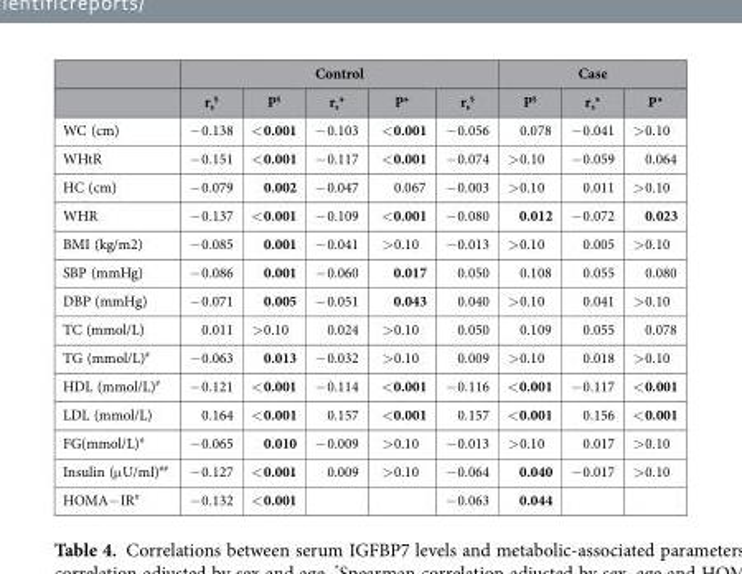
<table><thead><tr><td rowspan="2"></td><td colspan="5">Control</td><td colspan="3">Case</td></tr><tr><td>r<sub>s</sub> §</td><td>P§</td><td>r<sub>s</sub>*</td><td>P*</td><td>r<sub>s</sub> §</td><td>P§</td><td>r<sub>s</sub>*</td><td>P*</td></tr></thead><tbody><tr><td>WC (cm)</td><td>− 0.138</td><td>&lt; 0.001</td><td>− 0.103</td><td>&lt; 0.001</td><td>− 0.056</td><td>0.078</td><td>− 0.041</td><td>&gt; 0.10</td></tr><tr><td>WHtR</td><td>− 0.151</td><td>&lt; 0.001</td><td>− 0.117</td><td>&lt; 0.001</td><td>− 0.074</td><td>&gt; 0.10</td><td>− 0.059</td><td>0.064</td></tr><tr><td>HC (cm)</td><td>− 0.079</td><td>0.002</td><td>− 0.047</td><td>0.067</td><td>− 0.003</td><td>&gt; 0.10</td><td>0.011</td><td>&gt; 0.10</td></tr><tr><td>WHR</td><td>− 0.137</td><td>&lt; 0.001</td><td>− 0.109</td><td>&lt; 0.001</td><td>− 0.080</td><td>0.012</td><td>− 0.072</td><td>0.023</td></tr><tr><td>BMI (kg/m2)</td><td>− 0.085</td><td>0.001</td><td>− 0.041</td><td>&gt; 0.10</td><td>− 0.013</td><td>&gt; 0.10</td><td>0.005</td><td>&gt; 0.10</td></tr><tr><td>SBP (mmHg)</td><td>− 0.086</td><td>0.001</td><td>− 0.060</td><td>0.017</td><td>0.050</td><td>0.108</td><td>0.055</td><td>0.080</td></tr><tr><td>DBP (mmHg)</td><td>− 0.071</td><td>0.005</td><td>− 0.051</td><td>0.043</td><td>0.040</td><td>&gt; 0.10</td><td>0.041</td><td>&gt; 0.10</td></tr><tr><td>TC (mmol/L)</td><td>0.011</td><td>&gt; 0.10</td><td>0.024</td><td>&gt; 0.10</td><td>0.050</td><td>0.109</td><td>0.055</td><td>0.078</td></tr><tr><td>TG (mmol/L)<sup>#</sup></td><td>− 0.063</td><td>0.013</td><td>− 0.032</td><td>&gt; 0.10</td><td>0.009</td><td>&gt; 0.10</td><td>0.018</td><td>&gt; 0.10</td></tr><tr><td>HDL (mmol/L)<sup>#</sup></td><td>− 0.121</td><td>&lt; 0.001</td><td>− 0.114</td><td>&lt; 0.001</td><td>− 0.116</td><td>&lt; 0.001</td><td>− 0.117</td><td>&lt; 0.001</td></tr><tr><td>LDL (mmol/L)</td><td>0.164</td><td>&lt; 0.001</td><td>0.157</td><td>&lt;0.001</td><td>0.157</td><td>&lt; 0.001</td><td>0.156</td><td>&lt; 0.001</td></tr><tr><td>FG(mmol/L)<sup>#</sup></td><td>− 0.065</td><td>0.010</td><td>− 0.009</td><td>&gt; 0.10</td><td>− 0.013</td><td>&gt; 0.10</td><td>0.017</td><td>&gt; 0.10</td></tr><tr><td>Insulin (μ U/ml)<sup>##</sup></td><td>− 0.127</td><td>&lt; 0.001</td><td>0.009</td><td>&gt; 0.10</td><td>− 0.064</td><td>0.040</td><td>− 0.017</td><td>&gt; 0.10</td></tr><tr><td>HOMA− IR<sup>#</sup></td><td>− 0.132</td><td>&lt; 0.001</td><td></td><td></td><td>− 0.063</td><td>0.044</td><td></td><td></td></tr></tbody></table>